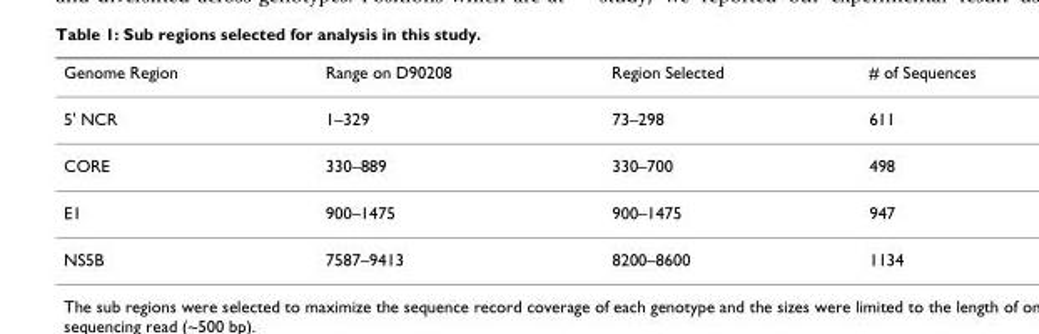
<table><thead><tr><td>Genome Region</td><td>Range on D90208</td><td>Region Selected</td><td># of Sequences</td></tr></thead><tbody><tr><td>5&#x27; NCR</td><td>1–329</td><td>73–298</td><td>611</td></tr><tr><td>CORE</td><td>330–889</td><td>330–700</td><td>498</td></tr><tr><td>E1</td><td>900–1475</td><td>900–1475</td><td>947</td></tr><tr><td>NS5B</td><td>7587–9413</td><td>8200–8600</td><td>1134</td></tr></tbody></table>